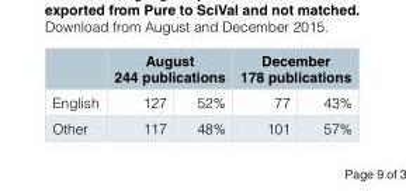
<table><thead><tr><td rowspan="2">English</td><td colspan="2">August 244 publications</td><td colspan="2">December 178 publications</td></tr><tr><td>127</td><td>52%</td><td>77</td><td>43%</td></tr></thead><tbody><tr><td>Other</td><td>117</td><td>48%</td><td>101</td><td>57%</td></tr></tbody></table>